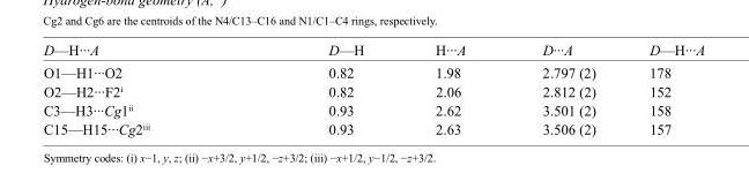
<table><tbody><tr><td>D—H···A</td><td>D—H</td><td>H···A</td><td>D···A</td><td>D—H···A</td></tr><tr><td>O1—H1···O2</td><td>0.82</td><td>1.98</td><td>2.797 (2)</td><td>178</td></tr><tr><td>O2—H2···F2<sup>i</sup></td><td>0.82</td><td>2.06</td><td>2.812 (2)</td><td>152</td></tr><tr><td>C3—H3···Cg1<sup>ii</sup></td><td>0.93</td><td>2.62</td><td>3.501 (2)</td><td>158</td></tr><tr><td>C15—H15···Cg2<sup>iii</sup></td><td>0.93</td><td>2.63</td><td>3.506 (2)</td><td>157</td></tr></tbody></table>